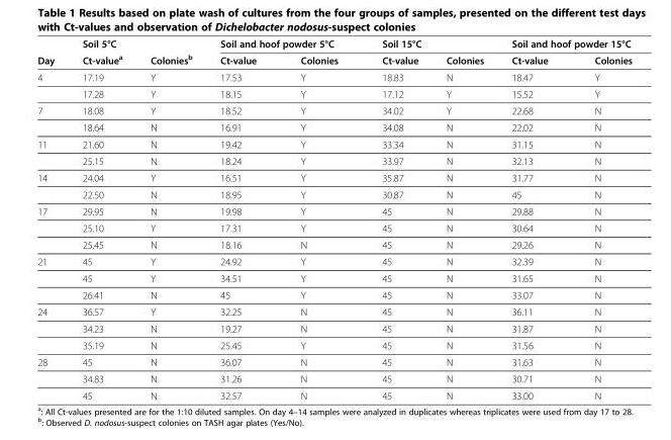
<table><thead><tr><td rowspan="2">Day</td><td rowspan="2">Soil 5°C Ct-value<sup>a</sup></td><td rowspan="2">Colonies<sup>b</sup></td><td colspan="2">Soil and hoof powder 5°C</td><td colspan="2">Soil 15°C</td><td colspan="2">Soil and hoof powder 15°C</td></tr><tr><td>Ct-value</td><td>Colonies</td><td>Ct-value</td><td>Colonies</td><td>Ct-value</td><td>Colonies</td></tr></thead><tbody><tr><td rowspan="2">4</td><td>17.19</td><td>Y</td><td>17.53</td><td>Y</td><td>18.83</td><td>N</td><td>18.47</td><td>Y</td></tr><tr><td>17.28</td><td>Y</td><td>18.15</td><td>Y</td><td>17.12</td><td>Y</td><td>15.52</td><td>Y</td></tr><tr><td rowspan="2">7</td><td>18.08</td><td>Y</td><td>18.52</td><td>Y</td><td>34.02</td><td>Y</td><td>22.68</td><td>N</td></tr><tr><td>18.64</td><td>N</td><td>16.91</td><td>Y</td><td>34.08</td><td>N</td><td>22.02</td><td>N</td></tr><tr><td rowspan="2">11</td><td>21.60</td><td>N</td><td>19.42</td><td>Y</td><td>33.34</td><td>N</td><td>31.15</td><td>N</td></tr><tr><td>25.15</td><td>N</td><td>18.24</td><td>Y</td><td>33.97</td><td>N</td><td>32.13</td><td>N</td></tr><tr><td rowspan="2">14</td><td>24.04</td><td>Y</td><td>16.51</td><td>Y</td><td>35.87</td><td>N</td><td>31.77</td><td>N</td></tr><tr><td>22.50</td><td>N</td><td>18.95</td><td>Y</td><td>30.87</td><td>N</td><td>45</td><td>N</td></tr><tr><td rowspan="3">17</td><td>29.95</td><td>N</td><td>19.98</td><td>Y</td><td>45</td><td>N</td><td>29.88</td><td>N</td></tr><tr><td>25.10</td><td>Y</td><td>17.31</td><td>Y</td><td>45</td><td>N</td><td>30.64</td><td>N</td></tr><tr><td>25.45</td><td>N</td><td>18.16</td><td>N</td><td>45</td><td>N</td><td>29.26</td><td>N</td></tr><tr><td rowspan="3">21</td><td>45</td><td>Y</td><td>24.92</td><td>Y</td><td>45</td><td>N</td><td>32.39</td><td>N</td></tr><tr><td>45</td><td>Y</td><td>34.51</td><td>Y</td><td>45</td><td>N</td><td>31.65</td><td>N</td></tr><tr><td>26.41</td><td>N</td><td>45</td><td>Y</td><td>45</td><td>N</td><td>33.07</td><td>N</td></tr><tr><td rowspan="3">24</td><td>36.57</td><td>Y</td><td>32.25</td><td>N</td><td>45</td><td>N</td><td>36.11</td><td>N</td></tr><tr><td>34.23</td><td>N</td><td>19.27</td><td>N</td><td>45</td><td>N</td><td>31.87</td><td>N</td></tr><tr><td>35.19</td><td>N</td><td>25.45</td><td>Y</td><td>45</td><td>N</td><td>31.56</td><td>N</td></tr><tr><td rowspan="3">28</td><td>45</td><td>N</td><td>36.07</td><td>N</td><td>45</td><td>N</td><td>31.63</td><td>N</td></tr><tr><td>34.83</td><td>N</td><td>31.26</td><td>N</td><td>45</td><td>N</td><td>30.71</td><td>N</td></tr><tr><td>45</td><td>N</td><td>32.57</td><td>N</td><td>45</td><td>N</td><td>33.00</td><td>N</td></tr></tbody></table>